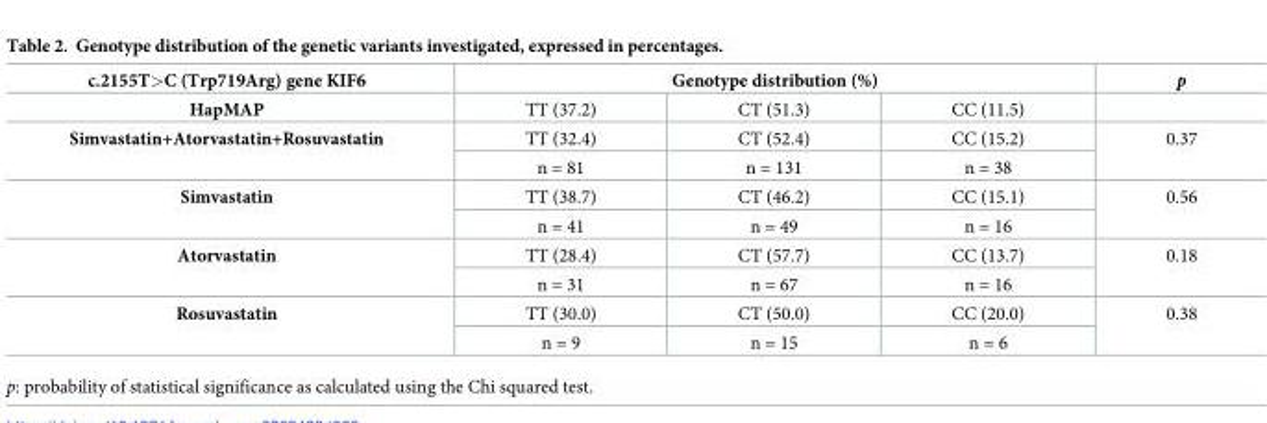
<table><thead><tr><td rowspan="2">c.2155T&gt;C (Trp719Arg) gene KIF6 HapMAP</td><td colspan="3">Genotype distribution (%)</td><td rowspan="2">p</td></tr><tr><td>TT (37.2)</td><td>CT (51.3)</td><td>CC (11.5)</td></tr></thead><tbody><tr><td rowspan="2">Simvastatin+Atorvastatin+Rosuvastatin</td><td>TT (32.4)</td><td>CT (52.4)</td><td>CC (15.2)</td><td rowspan="2">0.37</td></tr><tr><td>n = 81</td><td>n = 131</td><td>n = 38</td></tr><tr><td rowspan="2">Simvastatin</td><td>TT (38.7)</td><td>CT (46.2)</td><td>CC (15.1)</td><td rowspan="2">0.56</td></tr><tr><td>n = 41</td><td>n = 49</td><td>n = 16</td></tr><tr><td rowspan="2">Atorvastatin</td><td>TT (28.4)</td><td>CT (57.7)</td><td>CC (13.7)</td><td rowspan="2">0.18</td></tr><tr><td>n = 31</td><td>n = 67</td><td>n = 16</td></tr><tr><td rowspan="2">Rosuvastatin</td><td>TT (30.0)</td><td>CT (50.0)</td><td>CC (20.0)</td><td rowspan="2">0.38</td></tr><tr><td>n = 9</td><td>n = 15</td><td>n = 6</td></tr></tbody></table>